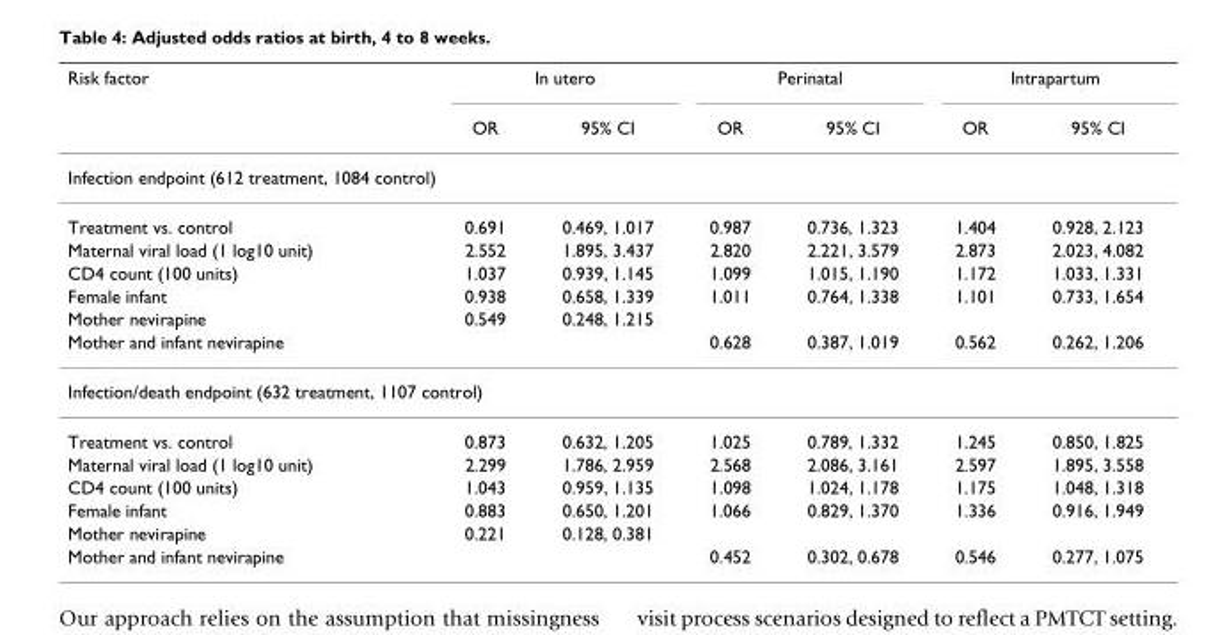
<table><thead><tr><td rowspan="2">Risk factor</td><td colspan="2">In utero</td><td colspan="2">Perinatal</td><td colspan="2">Intrapartum</td></tr><tr><td>OR</td><td>95% CI</td><td>OR</td><td>95% CI</td><td>OR</td><td>95% CI</td></tr></thead><tbody><tr><td colspan="7">Infection endpoint (612 treatment, 1084 control)</td></tr><tr><td>Treatment vs. control</td><td>0.691</td><td>0.469, 1.017</td><td>0.987</td><td>0.736, 1.323</td><td>1.404</td><td>0.928, 2.123</td></tr><tr><td>Maternal viral load (1 log10 unit)</td><td>2.552</td><td>1.895, 3.437</td><td>2.820</td><td>2.221, 3.579</td><td>2.873</td><td>2.023, 4.082</td></tr><tr><td>CD4 count (100 units)</td><td>1.037</td><td>0.939, 1.145</td><td>1.099</td><td>1.015, 1.190</td><td>1.172</td><td>1.033, 1.331</td></tr><tr><td>Female infant</td><td>0.938</td><td>0.658, 1.339</td><td>1.011</td><td>0.764, 1.338</td><td>1.101</td><td>0.733, 1.654</td></tr><tr><td>Mother nevirapine</td><td>0.549</td><td>0.248, 1.215</td><td></td><td></td><td></td><td></td></tr><tr><td>Mother and infant nevirapine</td><td></td><td></td><td>0.628</td><td>0.387, 1.019</td><td>0.562</td><td>0.262, 1.206</td></tr><tr><td colspan="7">Infection/death endpoint (632 treatment, 1107 control)</td></tr><tr><td>Treatment vs. control</td><td>0.873</td><td>0.632, 1.205</td><td>1.025</td><td>0.789, 1.332</td><td>1.245</td><td>0.850, 1.825</td></tr><tr><td>Maternal viral load (1 log10 unit)</td><td>2.299</td><td>1.786, 2.959</td><td>2.568</td><td>2.086, 3.161</td><td>2.597</td><td>1.895, 3.558</td></tr><tr><td>CD4 count (100 units)</td><td>1.043</td><td>0.959, 1.135</td><td>1.098</td><td>1.024, 1.178</td><td>1.175</td><td>1.048, 1.318</td></tr><tr><td>Female infant</td><td>0.883</td><td>0.650, 1.201</td><td>1.066</td><td>0.829, 1.370</td><td>1.336</td><td>0.916, 1.949</td></tr><tr><td>Mother nevirapine</td><td>0.221</td><td>0.128, 0.381</td><td></td><td></td><td></td><td></td></tr><tr><td>Mother and infant nevirapine</td><td></td><td></td><td>0.452</td><td>0.302, 0.678</td><td>0.546</td><td>0.277, 1.075</td></tr></tbody></table>